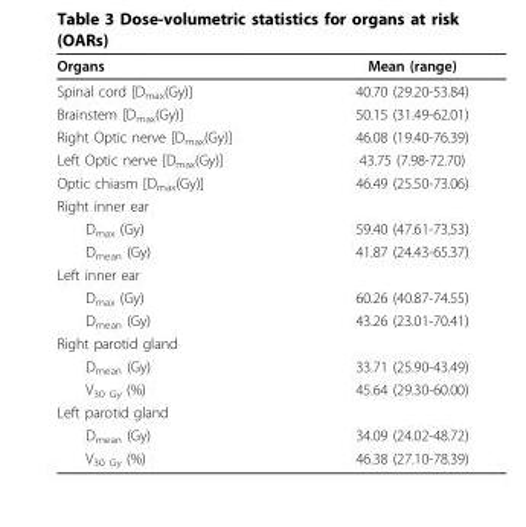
<table><thead><tr><td>Organs</td><td>Mean (range)</td></tr></thead><tbody><tr><td>Spinal cord [D<sub>max</sub>(Gy)]</td><td>40.70 (29.20-53.84)</td></tr><tr><td>Brainstem [D<sub>max</sub>(Gy)]</td><td>50.15 (31.49-62.01)</td></tr><tr><td>Right Optic nerve [D<sub>max</sub>(Gy)]</td><td>46.08 (19.40-76.39)</td></tr><tr><td>Left Optic nerve [D<sub>max</sub>(Gy)]</td><td>43.75 (7.98-72.70)</td></tr><tr><td>Optic chiasm [D<sub>max</sub>(Gy)]</td><td>46.49 (25.50-73.06)</td></tr><tr><td colspan="2">Right inner ear</td></tr><tr><td>D<sub>max</sub> (Gy)</td><td>59.40 (47.61-73.53)</td></tr><tr><td>D<sub>mean</sub> (Gy)</td><td>41.87 (24.43-65.37)</td></tr><tr><td colspan="2">Left inner ear</td></tr><tr><td>D<sub>max</sub> (Gy)</td><td>60.26 (40.87-74.55)</td></tr><tr><td>D<sub>mean</sub> (Gy)</td><td>43.26 (23.01-70.41)</td></tr><tr><td colspan="2">Right parotid gland</td></tr><tr><td>D<sub>mean</sub> (Gy)</td><td>33.71 (25.90-43.49)</td></tr><tr><td>V<sub>30 Gy</sub> (%)</td><td>45.64 (29.30-60.00)</td></tr><tr><td colspan="2">Left parotid gland</td></tr><tr><td>D<sub>mean</sub> (Gy)</td><td>34.09 (24.02-48.72)</td></tr><tr><td>V<sub>30 Gy</sub> (%)</td><td>46.38 (27.10-78.39)</td></tr></tbody></table>